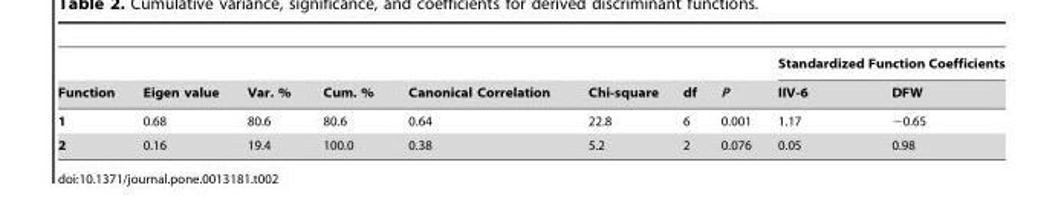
<table><thead><tr><td rowspan="2">Function</td><td rowspan="2">Eigen value</td><td rowspan="2">Var. %</td><td rowspan="2">Cum. %</td><td rowspan="2">Canonical Correlation</td><td rowspan="2">Chi-square</td><td rowspan="2">df</td><td rowspan="2">P</td><td colspan="2">Standardized Function Coefficients</td></tr><tr><td>IIV-6</td><td>DFW</td></tr></thead><tbody><tr><td>1</td><td>0.68</td><td>80.6</td><td>80.6</td><td>0.64</td><td>22.8</td><td>6</td><td>0.001</td><td>1.17</td><td>−0.65</td></tr><tr><td>2</td><td>0.16</td><td>19.4</td><td>100.0</td><td>0.38</td><td>5.2</td><td>2</td><td>0.076</td><td>0.05</td><td>0.98</td></tr></tbody></table>